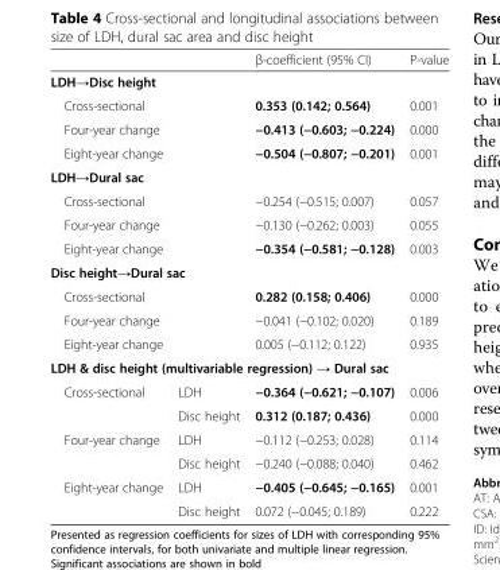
<table><thead><tr><td></td><td></td><td>β-coefficient (95% CI)</td><td>P-value</td></tr></thead><tbody><tr><td colspan="4">LDH→Disc height</td></tr><tr><td colspan="2">Cross-sectional</td><td>0.353 (0.142; 0.564)</td><td>0.001</td></tr><tr><td colspan="2">Four-year change</td><td>−0.413 (−0.603; −0.224)</td><td>0.000</td></tr><tr><td colspan="2">Eight-year change</td><td>−0.504 (−0.807; −0.201)</td><td>0.001</td></tr><tr><td colspan="4">LDH→Dural sac</td></tr><tr><td colspan="2">Cross-sectional</td><td>−0.254 (−0.515; 0.007)</td><td>0.057</td></tr><tr><td colspan="2">Four-year change</td><td>−0.130 (−0.262; 0.003)</td><td>0.055</td></tr><tr><td colspan="2">Eight-year change</td><td>−0.354 (−0.581; −0.128)</td><td>0.003</td></tr><tr><td colspan="4">Disc height→Dural sac</td></tr><tr><td colspan="2">Cross-sectional</td><td>0.282 (0.158; 0.406)</td><td>0.000</td></tr><tr><td colspan="2">Four-year change</td><td>−0.041 (−0.102; 0.020)</td><td>0.189</td></tr><tr><td colspan="2">Eight-year change</td><td>0.005 (−0.112; 0.122)</td><td>0.935</td></tr><tr><td colspan="4">LDH &amp; disc height (multivariable regression) → Dural sac</td></tr><tr><td rowspan="2">Cross-sectional</td><td>LDH</td><td>−0.364 (−0.621; −0.107)</td><td>0.006</td></tr><tr><td>Disc height</td><td>0.312 (0.187; 0.436)</td><td>0.000</td></tr><tr><td rowspan="2">Four-year change</td><td>LDH</td><td>−0.112 (−0.253; 0.028)</td><td>0.114</td></tr><tr><td>Disc height</td><td>−0.240 (−0.088; 0.040)</td><td>0.462</td></tr><tr><td rowspan="2">Eight-year change</td><td>LDH</td><td>−0.405 (−0.645; −0.165)</td><td>0.001</td></tr><tr><td>Disc height</td><td>0.072 (−0.045; 0.189)</td><td>0.222</td></tr></tbody></table>